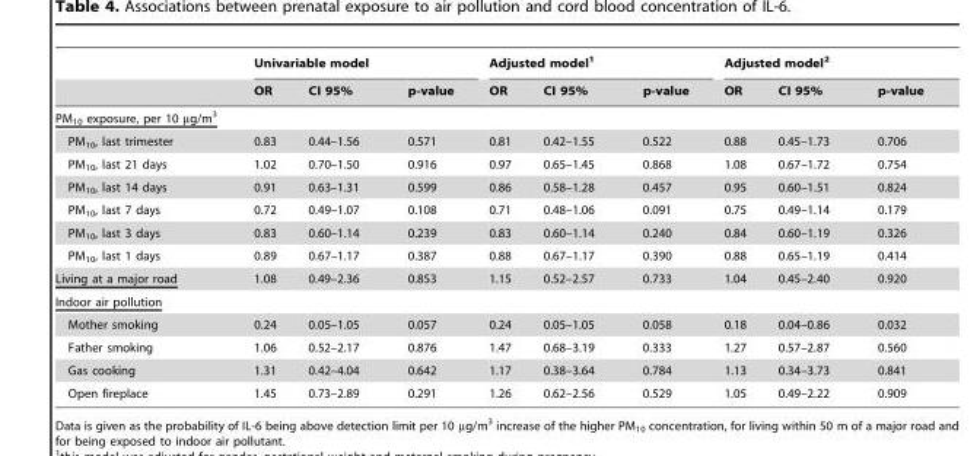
<table><thead><tr><td rowspan="2"></td><td colspan="3">Univariable model</td><td colspan="3">Adjusted model<sup>1</sup></td><td colspan="3">Adjusted model<sup>2</sup></td></tr><tr><td>OR</td><td>CI 95%</td><td>p-value</td><td>OR</td><td>CI 95%</td><td>p-value</td><td>OR</td><td>CI 95%</td><td>p-value</td></tr></thead><tbody><tr><td colspan="10">PM<sub>10</sub> exposure, per 10 µg/m<sup>3</sup></td></tr><tr><td>PM<sub>10</sub>, last trimester</td><td>0.83</td><td>0.44–1.56</td><td>0.571</td><td>0.81</td><td>0.42–1.55</td><td>0.522</td><td>0.88</td><td>0.45–1.73</td><td>0.706</td></tr><tr><td>PM<sub>10</sub>, last 21 days</td><td>1.02</td><td>0.70–1.50</td><td>0.916</td><td>0.97</td><td>0.65–1.45</td><td>0.868</td><td>1.08</td><td>0.67–1.72</td><td>0.754</td></tr><tr><td>PM<sub>10</sub>, last 14 days</td><td>0.91</td><td>0.63–1.31</td><td>0.599</td><td>0.86</td><td>0.58–1.28</td><td>0.457</td><td>0.95</td><td>0.60–1.51</td><td>0.824</td></tr><tr><td>PM<sub>10</sub>, last 7 days</td><td>0.72</td><td>0.49–1.07</td><td>0.108</td><td>0.71</td><td>0.48–1.06</td><td>0.091</td><td>0.75</td><td>0.49–1.14</td><td>0.179</td></tr><tr><td>PM<sub>10</sub>, last 3 days</td><td>0.83</td><td>0.60–1.14</td><td>0.239</td><td>0.83</td><td>0.60–1.14</td><td>0.240</td><td>0.84</td><td>0.60–1.19</td><td>0.326</td></tr><tr><td>PM<sub>10</sub>, last 1 days</td><td>0.89</td><td>0.67–1.17</td><td>0.387</td><td>0.88</td><td>0.67–1.17</td><td>0.390</td><td>0.88</td><td>0.65–1.19</td><td>0.414</td></tr><tr><td>Living at a major road</td><td>1.08</td><td>0.49–2.36</td><td>0.853</td><td>1.15</td><td>0.52–2.57</td><td>0.733</td><td>1.04</td><td>0.45–2.40</td><td>0.920</td></tr><tr><td colspan="10">Indoor air pollution</td></tr><tr><td>Mother smoking</td><td>0.24</td><td>0.05–1.05</td><td>0.057</td><td>0.24</td><td>0.05–1.05</td><td>0.058</td><td>0.18</td><td>0.04–0.86</td><td>0.032</td></tr><tr><td>Father smoking</td><td>1.06</td><td>0.52–2.17</td><td>0.876</td><td>1.47</td><td>0.68–3.19</td><td>0.333</td><td>1.27</td><td>0.57–2.87</td><td>0.560</td></tr><tr><td>Gas cooking</td><td>1.31</td><td>0.42–4.04</td><td>0.642</td><td>1.17</td><td>0.38–3.64</td><td>0.784</td><td>1.13</td><td>0.34–3.73</td><td>0.841</td></tr><tr><td>Open fireplace</td><td>1.45</td><td>0.73–2.89</td><td>0.291</td><td>1.26</td><td>0.62–2.56</td><td>0.529</td><td>1.05</td><td>0.49–2.22</td><td>0.909</td></tr></tbody></table>